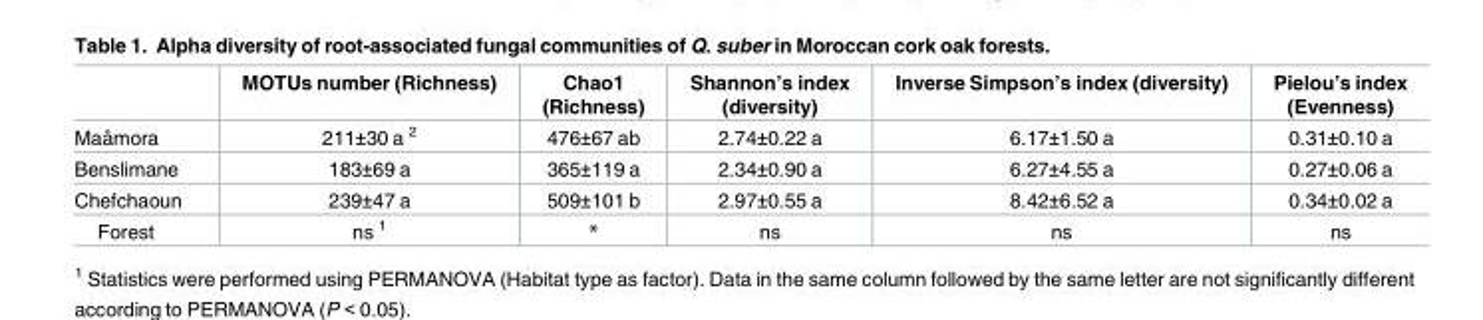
<table><thead><tr><td></td><td>MOTUs number (Richness)</td><td>Chao1 (Richness)</td><td>Shannon’s index (diversity)</td><td>Inverse Simpson’s index (diversity)</td><td>Pielou’s index (Evenness)</td></tr></thead><tbody><tr><td>Maaˆmora</td><td>211±30 a <sup>2</sup></td><td>476±67 ab</td><td>2.74±0.22 a</td><td>6.17±1.50 a</td><td>0.31±0.10 a</td></tr><tr><td>Benslimane</td><td>183±69 a</td><td>365±119 a</td><td>2.34±0.90 a</td><td>6.27±4.55 a</td><td>0.27±0.06 a</td></tr><tr><td>Chefchaoun</td><td>239±47 a</td><td>509±101 b</td><td>2.97±0.55 a</td><td>8.42±6.52 a</td><td>0.34±0.02 a</td></tr><tr><td>Forest</td><td>ns <sup>1</sup></td><td>*</td><td>ns</td><td>ns</td><td>ns</td></tr></tbody></table>